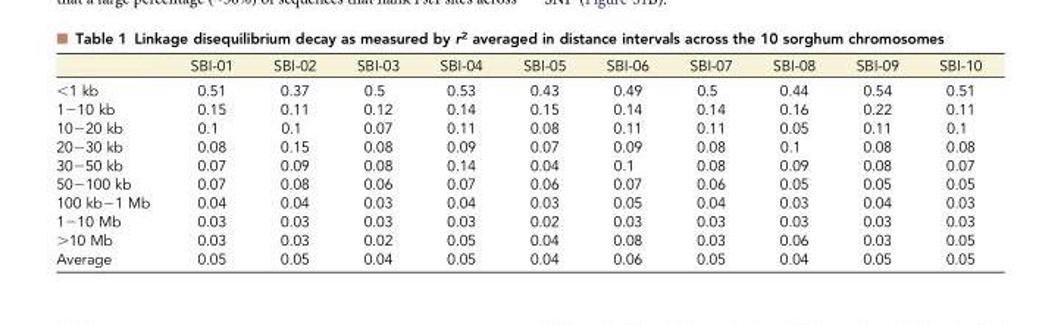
<table><thead><tr><td></td><td>SBI-01</td><td>SBI-02</td><td>SBI-03</td><td>SBI-04</td><td>SBI-05</td><td>SBI-06</td><td>SBI-07</td><td>SBI-08</td><td>SBI-09</td><td>SBI-10</td></tr></thead><tbody><tr><td>&lt;1 kb</td><td>0.51</td><td>0.37</td><td>0.5</td><td>0.53</td><td>0.43</td><td>0.49</td><td>0.5</td><td>0.44</td><td>0.54</td><td>0.51</td></tr><tr><td>1−10 kb</td><td>0.15</td><td>0.11</td><td>0.12</td><td>0.14</td><td>0.15</td><td>0.14</td><td>0.14</td><td>0.16</td><td>0.22</td><td>0.11</td></tr><tr><td>10−20 kb</td><td>0.1</td><td>0.1</td><td>0.07</td><td>0.11</td><td>0.08</td><td>0.11</td><td>0.11</td><td>0.05</td><td>0.11</td><td>0.1</td></tr><tr><td>20−30 kb</td><td>0.08</td><td>0.15</td><td>0.08</td><td>0.09</td><td>0.07</td><td>0.09</td><td>0.08</td><td>0.1</td><td>0.08</td><td>0.08</td></tr><tr><td>30−50 kb</td><td>0.07</td><td>0.09</td><td>0.08</td><td>0.14</td><td>0.04</td><td>0.1</td><td>0.08</td><td>0.09</td><td>0.08</td><td>0.07</td></tr><tr><td>50−100 kb</td><td>0.07</td><td>0.08</td><td>0.06</td><td>0.07</td><td>0.06</td><td>0.07</td><td>0.06</td><td>0.05</td><td>0.05</td><td>0.05</td></tr><tr><td>100 kb−1 Mb</td><td>0.04</td><td>0.04</td><td>0.03</td><td>0.04</td><td>0.03</td><td>0.05</td><td>0.04</td><td>0.03</td><td>0.04</td><td>0.03</td></tr><tr><td>1−10 Mb</td><td>0.03</td><td>0.03</td><td>0.03</td><td>0.03</td><td>0.02</td><td>0.03</td><td>0.03</td><td>0.03</td><td>0.03</td><td>0.03</td></tr><tr><td>&gt;10 Mb</td><td>0.03</td><td>0.03</td><td>0.02</td><td>0.05</td><td>0.04</td><td>0.08</td><td>0.03</td><td>0.06</td><td>0.03</td><td>0.05</td></tr><tr><td>Average</td><td>0.05</td><td>0.05</td><td>0.04</td><td>0.05</td><td>0.04</td><td>0.06</td><td>0.05</td><td>0.04</td><td>0.05</td><td>0.05</td></tr></tbody></table>